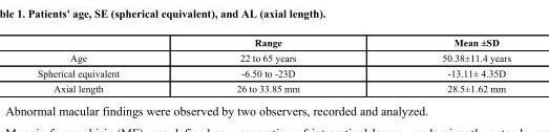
<table><thead><tr><td></td><td>Range</td><td>Mean ±SD</td></tr></thead><tbody><tr><td>Age</td><td>22 to 65 years</td><td>50.38±11.4 years</td></tr><tr><td>Spherical equivalent</td><td>-6.50 to -23D</td><td>-13.11± 4.35D</td></tr><tr><td>Axial length</td><td>26 to 33.85 mm</td><td>28.5±1.62 mm</td></tr></tbody></table>